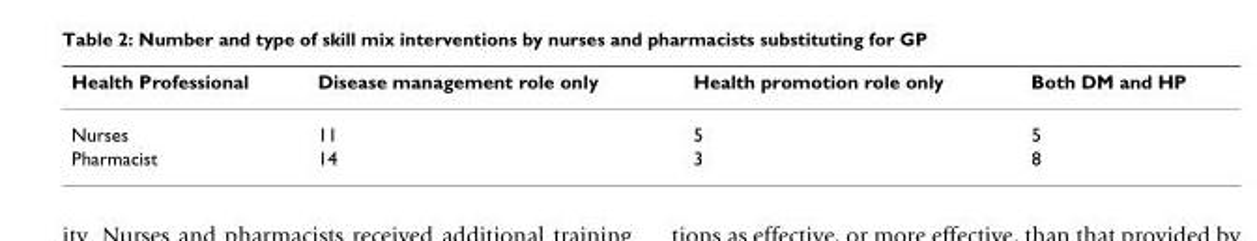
<table><thead><tr><td>Health Professional</td><td>Disease management role only</td><td>Health promotion role only</td><td>Both DM and HP</td></tr></thead><tbody><tr><td>Nurses</td><td>11</td><td>5</td><td>5</td></tr><tr><td>Pharmacist</td><td>14</td><td>3</td><td>8</td></tr></tbody></table>